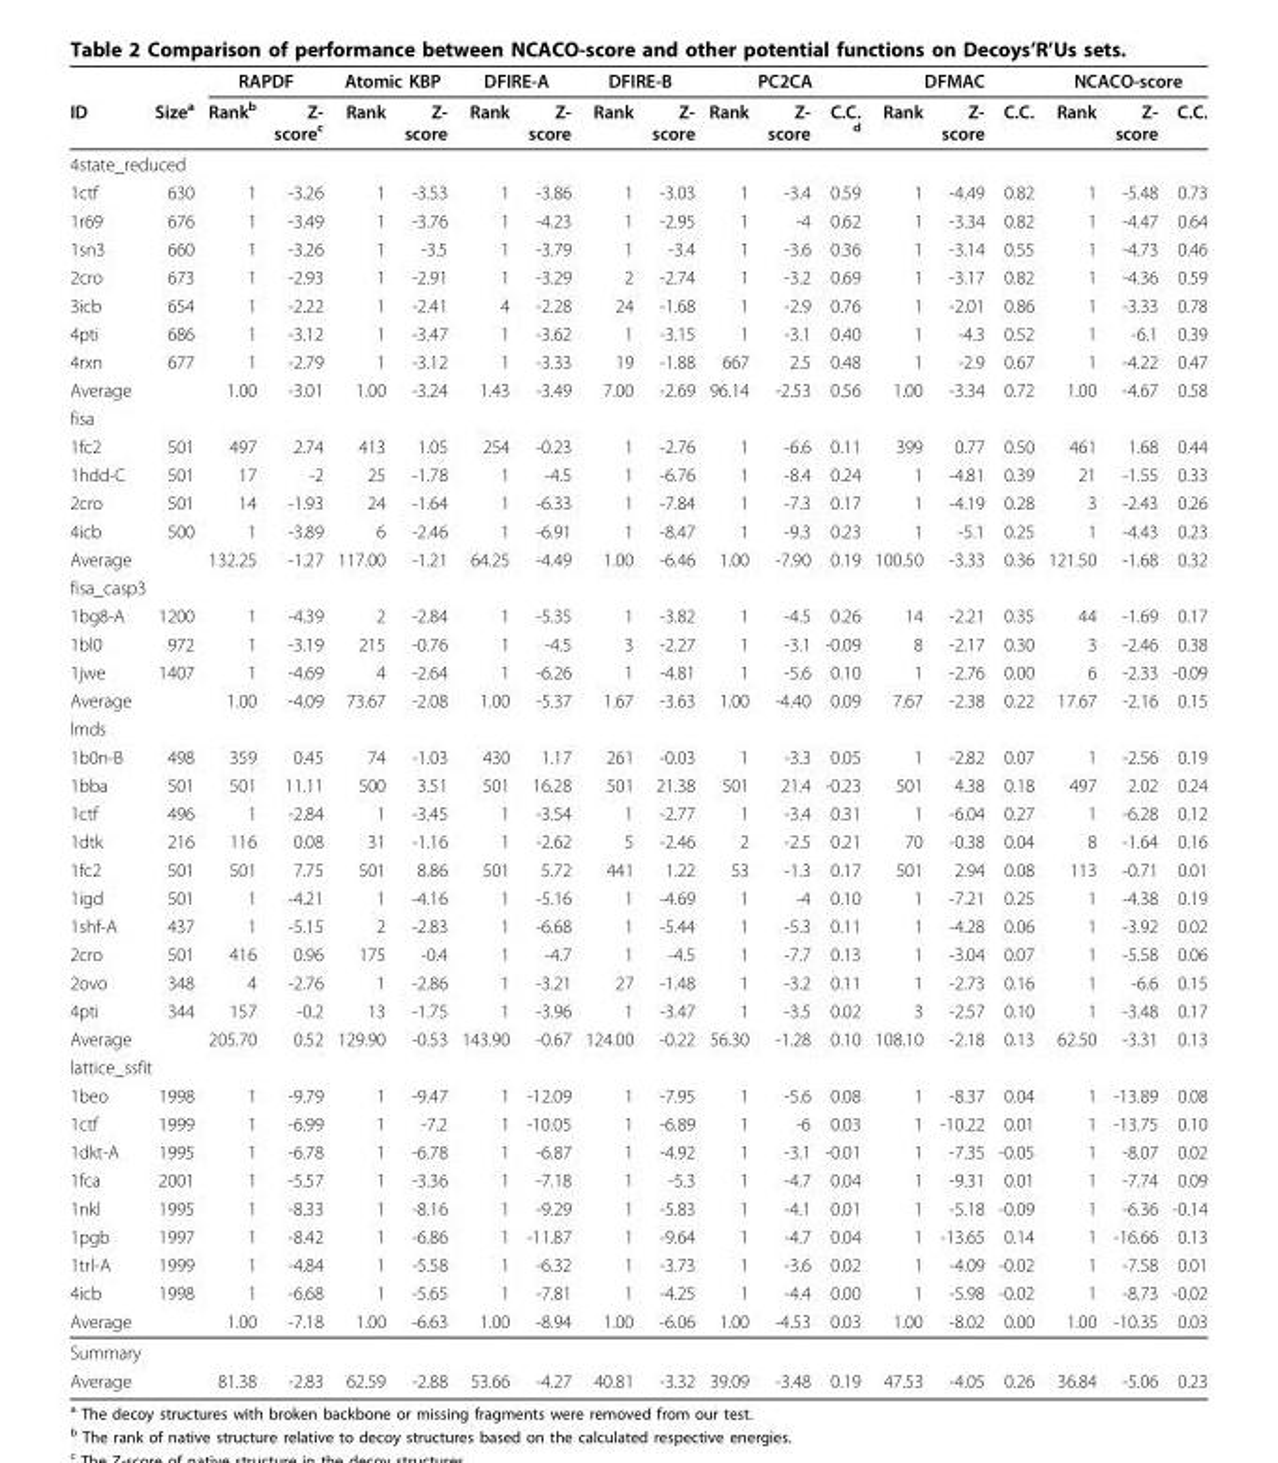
<table><thead><tr><td rowspan="2">ID</td><td rowspan="2">Size<sup>a</sup></td><td colspan="2">RAPDF</td><td colspan="2">Atomic KBP</td><td colspan="2">DFIRE-A</td><td colspan="2">DFIRE-B</td><td colspan="3">PC2CA</td><td colspan="3">DFMAC</td><td colspan="3">NCACO-score</td></tr><tr><td>Rank<sup>b</sup></td><td>Z- score<sup>c</sup></td><td>Rank</td><td>Z- score</td><td>Rank</td><td>Z- score</td><td>Rank</td><td>Z- score</td><td>Rank</td><td>Z- score</td><td>C.C. <sup>d</sup></td><td>Rank</td><td>Z- score</td><td>C.C.</td><td>Rank</td><td>Z- score</td><td>C.C.</td></tr></thead><tbody><tr><td colspan="19">4state_reduced</td></tr><tr><td>1ctf</td><td>630</td><td>1</td><td>-3.26</td><td>1</td><td>-3.53</td><td>1</td><td>-3.86</td><td>1</td><td>-3.03</td><td>1</td><td>-3.4</td><td>0.59</td><td>1</td><td>-4.49</td><td>0.82</td><td>1</td><td>-5.48</td><td>0.73</td></tr><tr><td>1r69</td><td>676</td><td>1</td><td>-3.49</td><td>1</td><td>-3.76</td><td>1</td><td>-4.23</td><td>1</td><td>-2.95</td><td>1</td><td>-4</td><td>0.62</td><td>1</td><td>-3.34</td><td>0.82</td><td>1</td><td>-4.47</td><td>0.64</td></tr><tr><td>1sn3</td><td>660</td><td>1</td><td>-3.26</td><td>1</td><td>-3.5</td><td>1</td><td>-3.79</td><td>1</td><td>-3.4</td><td>1</td><td>-3.6</td><td>0.36</td><td>1</td><td>-3.14</td><td>0.55</td><td>1</td><td>-4.73</td><td>0.46</td></tr><tr><td>2cro</td><td>673</td><td>1</td><td>-2.93</td><td>1</td><td>-2.91</td><td>1</td><td>-3.29</td><td>2</td><td>-2.74</td><td>1</td><td>-3.2</td><td>0.69</td><td>1</td><td>-3.17</td><td>0.82</td><td>1</td><td>-4.36</td><td>0.59</td></tr><tr><td>3icb</td><td>654</td><td>1</td><td>-2.22</td><td>1</td><td>-2.41</td><td>4</td><td>-2.28</td><td>24</td><td>-1.68</td><td>1</td><td>-2.9</td><td>0.76</td><td>1</td><td>-2.01</td><td>0.86</td><td>1</td><td>-3.33</td><td>0.78</td></tr><tr><td>4pti</td><td>686</td><td>1</td><td>-3.12</td><td>1</td><td>-3.47</td><td>1</td><td>-3.62</td><td>1</td><td>-3.15</td><td>1</td><td>-3.1</td><td>0.40</td><td>1</td><td>-4.3</td><td>0.52</td><td>1</td><td>-6.1</td><td>0.39</td></tr><tr><td>4rxn</td><td>677</td><td>1</td><td>-2.79</td><td>1</td><td>-3.12</td><td>1</td><td>-3.33</td><td>19</td><td>-1.88</td><td>667</td><td>2.5</td><td>0.48</td><td>1</td><td>-2.9</td><td>0.67</td><td>1</td><td>-4.22</td><td>0.47</td></tr><tr><td>Average</td><td></td><td>1.00</td><td>-3.01</td><td>1.00</td><td>-3.24</td><td>1.43</td><td>-3.49</td><td>7.00</td><td>-2.69</td><td>96.14</td><td>-2.53</td><td>0.56</td><td>1.00</td><td>-3.34</td><td>0.72</td><td>1.00</td><td>-4.67</td><td>0.58</td></tr><tr><td colspan="19">fisa</td></tr><tr><td>1fc2</td><td>501</td><td>497</td><td>2.74</td><td>413</td><td>1.05</td><td>254</td><td>-0.23</td><td>1</td><td>-2.76</td><td>1</td><td>-6.6</td><td>0.11</td><td>399</td><td>0.77</td><td>0.50</td><td>461</td><td>1.68</td><td>0.44</td></tr><tr><td>1hdd-C</td><td>501</td><td>17</td><td>-2</td><td>25</td><td>-1.78</td><td>1</td><td>-4.5</td><td>1</td><td>-6.76</td><td>1</td><td>-8.4</td><td>0.24</td><td>1</td><td>-4.81</td><td>0.39</td><td>21</td><td>-1.55</td><td>0.33</td></tr><tr><td>2cro</td><td>501</td><td>14</td><td>-1.93</td><td>24</td><td>-1.64</td><td>1</td><td>-6.33</td><td>1</td><td>-7.84</td><td>1</td><td>-7.3</td><td>0.17</td><td>1</td><td>-4.19</td><td>0.28</td><td>3</td><td>-2.43</td><td>0.26</td></tr><tr><td>4icb</td><td>500</td><td>1</td><td>-3.89</td><td>6</td><td>-2.46</td><td>1</td><td>-6.91</td><td>1</td><td>-8.47</td><td>1</td><td>-9.3</td><td>0.23</td><td>1</td><td>-5.1</td><td>0.25</td><td>1</td><td>-4.43</td><td>0.23</td></tr><tr><td>Average</td><td></td><td>132.25</td><td>-1.27</td><td>117.00</td><td>-1.21</td><td>64.25</td><td>-4.49</td><td>1.00</td><td>-6.46</td><td>1.00</td><td>-7.90</td><td>0.19</td><td>100.50</td><td>-3.33</td><td>0.36</td><td>121.50</td><td>-1.68</td><td>0.32</td></tr><tr><td colspan="19">fisa_casp3</td></tr><tr><td>1bg8-A</td><td>1200</td><td>1</td><td>-4.39</td><td>2</td><td>-2.84</td><td>1</td><td>-5.35</td><td>1</td><td>-3.82</td><td>1</td><td>-4.5</td><td>0.26</td><td>14</td><td>-2.21</td><td>0.35</td><td>44</td><td>-1.69</td><td>0.17</td></tr><tr><td>1bl0</td><td>972</td><td>1</td><td>-3.19</td><td>215</td><td>-0.76</td><td>1</td><td>-4.5</td><td>3</td><td>-2.27</td><td>1</td><td>-3.1</td><td>-0.09</td><td>8</td><td>-2.17</td><td>0.30</td><td>3</td><td>-2.46</td><td>0.38</td></tr><tr><td>1jwe</td><td>1407</td><td>1</td><td>-4.69</td><td>4</td><td>-2.64</td><td>1</td><td>-6.26</td><td>1</td><td>-4.81</td><td>1</td><td>-5.6</td><td>0.10</td><td>1</td><td>-2.76</td><td>0.00</td><td>6</td><td>-2.33</td><td>-0.09</td></tr><tr><td>Average</td><td></td><td>1.00</td><td>-4.09</td><td>73.67</td><td>-2.08</td><td>1.00</td><td>-5.37</td><td>1.67</td><td>-3.63</td><td>1.00</td><td>-4.40</td><td>0.09</td><td>7.67</td><td>-2.38</td><td>0.22</td><td>17.67</td><td>-2.16</td><td>0.15</td></tr><tr><td colspan="19">lmds</td></tr><tr><td>1b0n-B</td><td>498</td><td>359</td><td>0.45</td><td>74</td><td>-1.03</td><td>430</td><td>1.17</td><td>261</td><td>-0.03</td><td>1</td><td>-3.3</td><td>0.05</td><td>1</td><td>-2.82</td><td>0.07</td><td>1</td><td>-2.56</td><td>0.19</td></tr><tr><td>1bba</td><td>501</td><td>501</td><td>11.11</td><td>500</td><td>3.51</td><td>501</td><td>16.28</td><td>501</td><td>21.38</td><td>501</td><td>21.4</td><td>-0.23</td><td>501</td><td>4.38</td><td>0.18</td><td>497</td><td>2.02</td><td>0.24</td></tr><tr><td>1ctf</td><td>496</td><td>1</td><td>-2.84</td><td>1</td><td>-3.45</td><td>1</td><td>-3.54</td><td>1</td><td>-2.77</td><td>1</td><td>-3.4</td><td>0.31</td><td>1</td><td>-6.04</td><td>0.27</td><td>1</td><td>-6.28</td><td>0.12</td></tr><tr><td>1dtk</td><td>216</td><td>116</td><td>0.08</td><td>31</td><td>-1.16</td><td>1</td><td>-2.62</td><td>5</td><td>-2.46</td><td>2</td><td>-2.5</td><td>0.21</td><td>70</td><td>-0.38</td><td>0.04</td><td>8</td><td>-1.64</td><td>0.16</td></tr><tr><td>1fc2</td><td>501</td><td>501</td><td>7.75</td><td>501</td><td>8.86</td><td>501</td><td>5.72</td><td>441</td><td>1.22</td><td>53</td><td>-1.3</td><td>0.17</td><td>501</td><td>2.94</td><td>0.08</td><td>113</td><td>-0.71</td><td>0.01</td></tr><tr><td>1igd</td><td>501</td><td>1</td><td>-4.21</td><td>1</td><td>-4.16</td><td>1</td><td>-5.16</td><td>1</td><td>-4.69</td><td>1</td><td>-4</td><td>0.10</td><td>1</td><td>-7.21</td><td>0.25</td><td>1</td><td>-4.38</td><td>0.19</td></tr><tr><td>1shf-A</td><td>437</td><td>1</td><td>-5.15</td><td>2</td><td>-2.83</td><td>1</td><td>-6.68</td><td>1</td><td>-5.44</td><td>1</td><td>-5.3</td><td>0.11</td><td>1</td><td>-4.28</td><td>0.06</td><td>1</td><td>-3.92</td><td>0.02</td></tr><tr><td>2cro</td><td>501</td><td>416</td><td>0.96</td><td>175</td><td>-0.4</td><td>1</td><td>-4.7</td><td>1</td><td>-4.5</td><td>1</td><td>-7.7</td><td>0.13</td><td>1</td><td>-3.04</td><td>0.07</td><td>1</td><td>-5.58</td><td>0.06</td></tr><tr><td>2ovo</td><td>348</td><td>4</td><td>-2.76</td><td>1</td><td>-2.86</td><td>1</td><td>-3.21</td><td>27</td><td>-1.48</td><td>1</td><td>-3.2</td><td>0.11</td><td>1</td><td>-2.73</td><td>0.16</td><td>1</td><td>-6.6</td><td>0.15</td></tr><tr><td>4pti</td><td>344</td><td>157</td><td>-0.2</td><td>13</td><td>-1.75</td><td>1</td><td>-3.96</td><td>1</td><td>-3.47</td><td>1</td><td>-3.5</td><td>0.02</td><td>3</td><td>-2.57</td><td>0.10</td><td>1</td><td>-3.48</td><td>0.17</td></tr><tr><td>Average</td><td></td><td>205.70</td><td>0.52</td><td>129.90</td><td>-0.53</td><td>143.90</td><td>-0.67</td><td>124.00</td><td>-0.22</td><td>56.30</td><td>-1.28</td><td>0.10</td><td>108.10</td><td>-2.18</td><td>0.13</td><td>62.50</td><td>-3.31</td><td>0.13</td></tr><tr><td colspan="19">lattice_ssfit</td></tr><tr><td>1beo</td><td>1998</td><td>1</td><td>-9.79</td><td>1</td><td>-9.47</td><td>1</td><td>-12.09</td><td>1</td><td>-7.95</td><td>1</td><td>-5.6</td><td>0.08</td><td>1</td><td>-8.37</td><td>0.04</td><td>1</td><td>-13.89</td><td>0.08</td></tr><tr><td>1ctf</td><td>1999</td><td>1</td><td>-6.99</td><td>1</td><td>-7.2</td><td>1</td><td>-10.05</td><td>1</td><td>-6.89</td><td>1</td><td>-6</td><td>0.03</td><td>1</td><td>-10.22</td><td>0.01</td><td>1</td><td>-13.75</td><td>0.10</td></tr><tr><td>1dkt-A</td><td>1995</td><td>1</td><td>-6.78</td><td>1</td><td>-6.78</td><td>1</td><td>-6.87</td><td>1</td><td>-4.92</td><td>1</td><td>-3.1</td><td>-0.01</td><td>1</td><td>-7.35</td><td>-0.05</td><td>1</td><td>-8.07</td><td>0.02</td></tr><tr><td>1fca</td><td>2001</td><td>1</td><td>-5.57</td><td>1</td><td>-3.36</td><td>1</td><td>-7.18</td><td>1</td><td>-5.3</td><td>1</td><td>-4.7</td><td>0.04</td><td>1</td><td>-9.31</td><td>0.01</td><td>1</td><td>-7.74</td><td>0.09</td></tr><tr><td>1nkl</td><td>1995</td><td>1</td><td>-8.33</td><td>1</td><td>-8.16</td><td>1</td><td>-9.29</td><td>1</td><td>-5.83</td><td>1</td><td>-4.1</td><td>0.01</td><td>1</td><td>-5.18</td><td>-0.09</td><td>1</td><td>-6.36</td><td>-0.14</td></tr><tr><td>1pgb</td><td>1997</td><td>1</td><td>-8.42</td><td>1</td><td>-6.86</td><td>1</td><td>-11.87</td><td>1</td><td>-9.64</td><td>1</td><td>-4.7</td><td>0.04</td><td>1</td><td>-13.65</td><td>0.14</td><td>1</td><td>-16.66</td><td>0.13</td></tr><tr><td>1trl-A</td><td>1999</td><td>1</td><td>-4.84</td><td>1</td><td>-5.58</td><td>1</td><td>-6.32</td><td>1</td><td>-3.73</td><td>1</td><td>-3.6</td><td>0.02</td><td>1</td><td>-4.09</td><td>-0.02</td><td>1</td><td>-7.58</td><td>0.01</td></tr><tr><td>4icb</td><td>1998</td><td>1</td><td>-6.68</td><td>1</td><td>-5.65</td><td>1</td><td>-7.81</td><td>1</td><td>-4.25</td><td>1</td><td>-4.4</td><td>0.00</td><td>1</td><td>-5.98</td><td>-0.02</td><td>1</td><td>-8.73</td><td>-0.02</td></tr><tr><td>Average</td><td></td><td>1.00</td><td>-7.18</td><td>1.00</td><td>-6.63</td><td>1.00</td><td>-8.94</td><td>1.00</td><td>-6.06</td><td>1.00</td><td>-4.53</td><td>0.03</td><td>1.00</td><td>-8.02</td><td>0.00</td><td>1.00</td><td>-10.35</td><td>0.03</td></tr><tr><td colspan="19">Summary</td></tr><tr><td>Average</td><td></td><td>81.38</td><td>-2.83</td><td>62.59</td><td>-2.88</td><td>53.66</td><td>-4.27</td><td>40.81</td><td>-3.32</td><td>39.09</td><td>-3.48</td><td>0.19</td><td>47.53</td><td>-4.05</td><td>0.26</td><td>36.84</td><td>-5.06</td><td>0.23</td></tr></tbody></table>